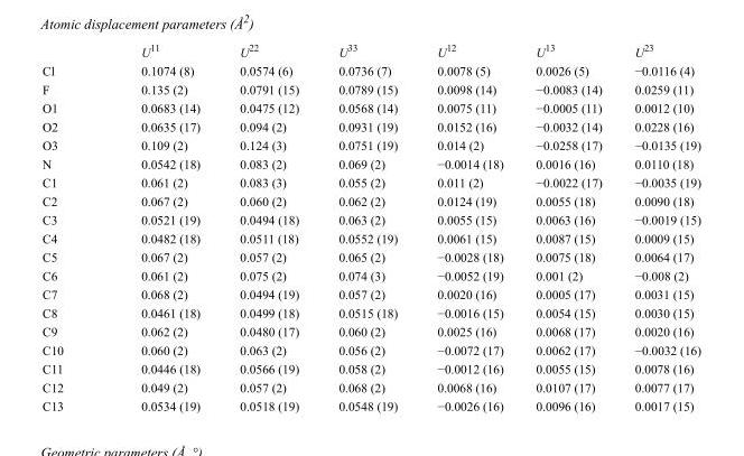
<table><thead><tr><td></td><td>U<sup>11</sup></td><td>U<sup>22</sup></td><td>U<sup>33</sup></td><td>U<sup>12</sup></td><td>U<sup>13</sup></td><td>U<sup>23</sup></td></tr></thead><tbody><tr><td>Cl</td><td>0.1074 (8)</td><td>0.0574 (6)</td><td>0.0736 (7)</td><td>0.0078 (5)</td><td>0.0026 (5)</td><td>−0.0116 (4)</td></tr><tr><td>F</td><td>0.135 (2)</td><td>0.0791 (15)</td><td>0.0789 (15)</td><td>0.0098 (14)</td><td>−0.0083 (14)</td><td>0.0259 (11)</td></tr><tr><td>O1</td><td>0.0683 (14)</td><td>0.0475 (12)</td><td>0.0568 (14)</td><td>0.0075 (11)</td><td>−0.0005 (11)</td><td>0.0012 (10)</td></tr><tr><td>O2</td><td>0.0635 (17)</td><td>0.094 (2)</td><td>0.0931 (19)</td><td>0.0152 (16)</td><td>−0.0032 (14)</td><td>0.0228 (16)</td></tr><tr><td>O3</td><td>0.109 (2)</td><td>0.124 (3)</td><td>0.0751 (19)</td><td>0.014 (2)</td><td>−0.0258 (17)</td><td>−0.0135 (19)</td></tr><tr><td>N</td><td>0.0542 (18)</td><td>0.083 (2)</td><td>0.069 (2)</td><td>−0.0014 (18)</td><td>0.0016 (16)</td><td>0.0110 (18)</td></tr><tr><td>C1</td><td>0.061 (2)</td><td>0.083 (3)</td><td>0.055 (2)</td><td>0.011 (2)</td><td>−0.0022 (17)</td><td>−0.0035 (19)</td></tr><tr><td>C2</td><td>0.067 (2)</td><td>0.060 (2)</td><td>0.062 (2)</td><td>0.0124 (19)</td><td>0.0055 (18)</td><td>0.0090 (18)</td></tr><tr><td>C3</td><td>0.0521 (19)</td><td>0.0494 (18)</td><td>0.063 (2)</td><td>0.0055 (15)</td><td>0.0063 (16)</td><td>−0.0019 (15)</td></tr><tr><td>C4</td><td>0.0482 (18)</td><td>0.0511 (18)</td><td>0.0552 (19)</td><td>0.0061 (15)</td><td>0.0087 (15)</td><td>0.0009 (15)</td></tr><tr><td>C5</td><td>0.067 (2)</td><td>0.057 (2)</td><td>0.065 (2)</td><td>−0.0028 (18)</td><td>0.0075 (18)</td><td>0.0064 (17)</td></tr><tr><td>C6</td><td>0.061 (2)</td><td>0.075 (2)</td><td>0.074 (3)</td><td>−0.0052 (19)</td><td>0.001 (2)</td><td>−0.008 (2)</td></tr><tr><td>C7</td><td>0.068 (2)</td><td>0.0494 (19)</td><td>0.057 (2)</td><td>0.0020 (16)</td><td>0.0005 (17)</td><td>0.0031 (15)</td></tr><tr><td>C8</td><td>0.0461 (18)</td><td>0.0499 (18)</td><td>0.0515 (18)</td><td>−0.0016 (15)</td><td>0.0054 (15)</td><td>0.0030 (15)</td></tr><tr><td>C9</td><td>0.062 (2)</td><td>0.0480 (17)</td><td>0.060 (2)</td><td>0.0025 (16)</td><td>0.0068 (17)</td><td>0.0020 (16)</td></tr><tr><td>C10</td><td>0.060 (2)</td><td>0.063 (2)</td><td>0.056 (2)</td><td>−0.0072 (17)</td><td>0.0062 (17)</td><td>−0.0032 (16)</td></tr><tr><td>C11</td><td>0.0446 (18)</td><td>0.0566 (19)</td><td>0.058 (2)</td><td>−0.0012 (16)</td><td>0.0055 (15)</td><td>0.0078 (16)</td></tr><tr><td>C12</td><td>0.049 (2)</td><td>0.057 (2)</td><td>0.068 (2)</td><td>0.0068 (16)</td><td>0.0107 (17)</td><td>0.0077 (17)</td></tr><tr><td>C13</td><td>0.0534 (19)</td><td>0.0518 (19)</td><td>0.0548 (19)</td><td>−0.0026 (16)</td><td>0.0096 (16)</td><td>0.0017 (15)</td></tr></tbody></table>